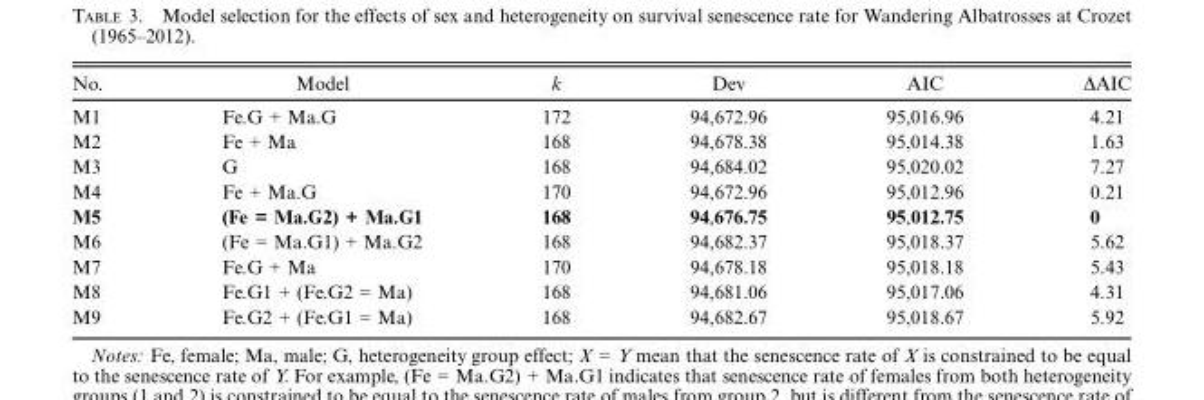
<table><thead><tr><td>No.</td><td>Model</td><td>k</td><td>Dev</td><td>AIC</td><td>ΔAIC</td></tr></thead><tbody><tr><td>M1</td><td>Fe.G + Ma.G</td><td>172</td><td>94,672.96</td><td>95,016.96</td><td>4.21</td></tr><tr><td>M2</td><td>Fe + Ma</td><td>168</td><td>94,678.38</td><td>95,014.38</td><td>1.63</td></tr><tr><td>M3</td><td>G</td><td>168</td><td>94,684.02</td><td>95,020.02</td><td>7.27</td></tr><tr><td>M4</td><td>Fe + Ma.G</td><td>170</td><td>94,672.96</td><td>95,012.96</td><td>0.21</td></tr><tr><td>M5</td><td>(Fe = Ma.G2) + Ma.G1</td><td>168</td><td>94,676.75</td><td>95,012.75</td><td>0</td></tr><tr><td>M6</td><td>(Fe = Ma.G1) + Ma.G2</td><td>168</td><td>94,682.37</td><td>95,018.37</td><td>5.62</td></tr><tr><td>M7</td><td>Fe.G + Ma</td><td>170</td><td>94,678.18</td><td>95,018.18</td><td>5.43</td></tr><tr><td>M8</td><td>Fe.G1 + (Fe.G2 = Ma)</td><td>168</td><td>94,681.06</td><td>95,017.06</td><td>4.31</td></tr><tr><td>M9</td><td>Fe.G2 + (Fe.G1 = Ma)</td><td>168</td><td>94,682.67</td><td>95,018.67</td><td>5.92</td></tr></tbody></table>